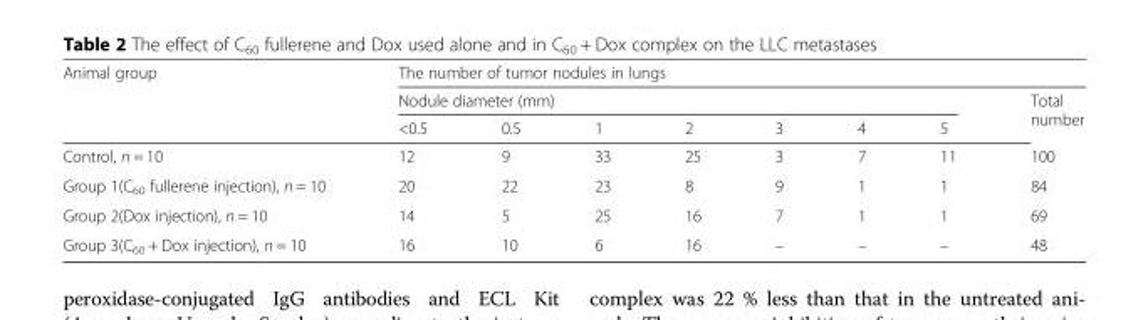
<table><thead><tr><td rowspan="3">Animal group</td><td colspan="8">The number of tumor nodules in lungs</td></tr><tr><td colspan="7">Nodule diameter (mm)</td><td rowspan="2">Total number</td></tr><tr><td>&lt;0.5</td><td>0.5</td><td>1</td><td>2</td><td>3</td><td>4</td><td>5</td></tr></thead><tbody><tr><td>Control, n = 10</td><td>12</td><td>9</td><td>33</td><td>25</td><td>3</td><td>7</td><td>11</td><td>100</td></tr><tr><td>Group 1(C<sub>60</sub> fullerene injection), n = 10</td><td>20</td><td>22</td><td>23</td><td>8</td><td>9</td><td>1</td><td>1</td><td>84</td></tr><tr><td>Group 2(Dox injection), n = 10</td><td>14</td><td>5</td><td>25</td><td>16</td><td>7</td><td>1</td><td>1</td><td>69</td></tr><tr><td>Group 3(C<sub>60</sub> + Dox injection), n = 10</td><td>16</td><td>10</td><td>6</td><td>16</td><td>–</td><td>–</td><td>–</td><td>48</td></tr></tbody></table>